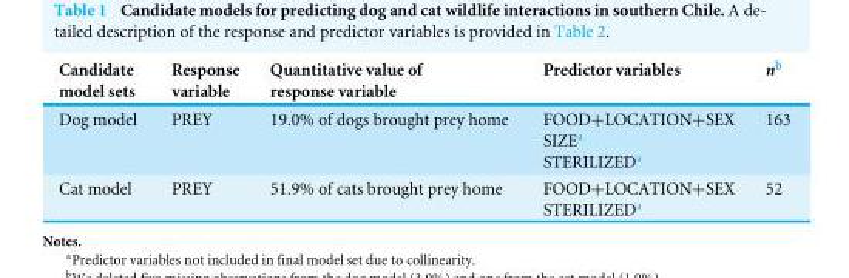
<table><thead><tr><td>Candidate model sets</td><td>Response variable</td><td>Quantitative value of response variable</td><td>Predictor variables</td><td>n<sup>b</sup></td></tr></thead><tbody><tr><td>Dog model</td><td>PREY</td><td>19.0% of dogs brought prey home</td><td>FOOD+LOCATION+SEX SIZE<sup>a</sup> STERILIZED<sup>a</sup></td><td>163</td></tr><tr><td>Cat model</td><td>PREY</td><td>51.9% of cats brought prey home</td><td>FOOD+LOCATION+SEX STERILIZED<sup>a</sup></td><td>52</td></tr></tbody></table>